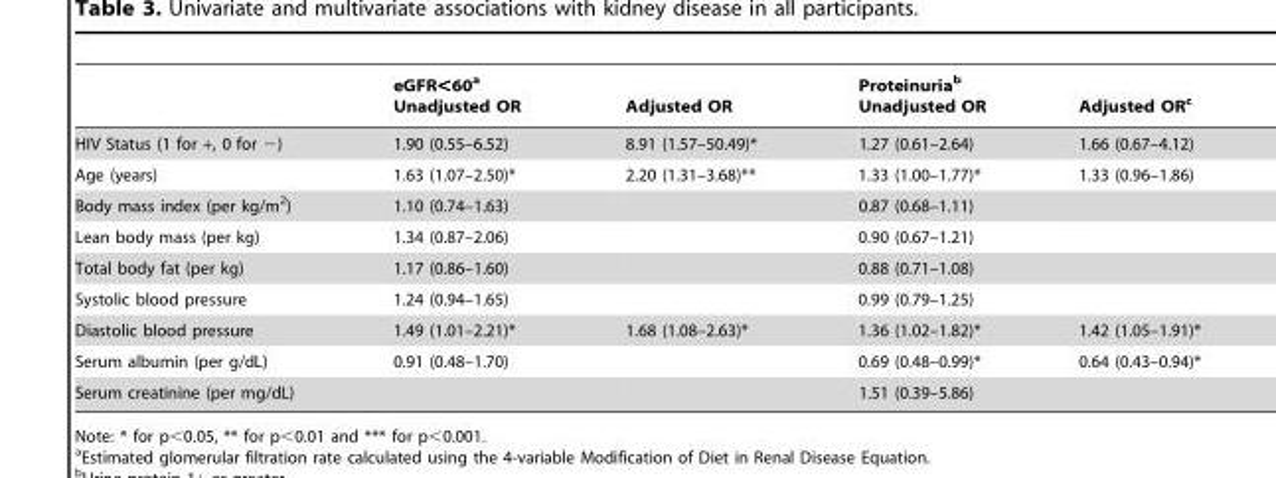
<table><thead><tr><td></td><td>eGFR&lt;60<sup>a</sup> Unadjusted OR</td><td>Adjusted OR</td><td>Proteinuria<sup>b</sup> Unadjusted OR</td><td>Adjusted OR<sup>c</sup></td></tr></thead><tbody><tr><td>HIV Status (1 for +, 0 for −)</td><td>1.90 (0.55–6.52)</td><td>8.91 (1.57–50.49)*</td><td>1.27 (0.61–2.64)</td><td>1.66 (0.67–4.12)</td></tr><tr><td>Age (years)</td><td>1.63 (1.07–2.50)*</td><td>2.20 (1.31–3.68)**</td><td>1.33 (1.00–1.77)*</td><td>1.33 (0.96–1.86)</td></tr><tr><td>Body mass index (per kg/m<sup>2</sup>)</td><td>1.10 (0.74–1.63)</td><td></td><td>0.87 (0.68–1.11)</td><td></td></tr><tr><td>Lean body mass (per kg)</td><td>1.34 (0.87–2.06)</td><td></td><td>0.90 (0.67–1.21)</td><td></td></tr><tr><td>Total body fat (per kg)</td><td>1.17 (0.86–1.60)</td><td></td><td>0.88 (0.71–1.08)</td><td></td></tr><tr><td>Systolic blood pressure</td><td>1.24 (0.94–1.65)</td><td></td><td>0.99 (0.79–1.25)</td><td></td></tr><tr><td>Diastolic blood pressure</td><td>1.49 (1.01–2.21)*</td><td>1.68 (1.08–2.63)*</td><td>1.36 (1.02–1.82)*</td><td>1.42 (1.05–1.91)*</td></tr><tr><td>Serum albumin (per g/dL)</td><td>0.91 (0.48–1.70)</td><td></td><td>0.69 (0.48–0.99)*</td><td>0.64 (0.43–0.94)*</td></tr><tr><td>Serum creatinine (per mg/dL)</td><td></td><td></td><td>1.51 (0.39–5.86)</td><td></td></tr></tbody></table>